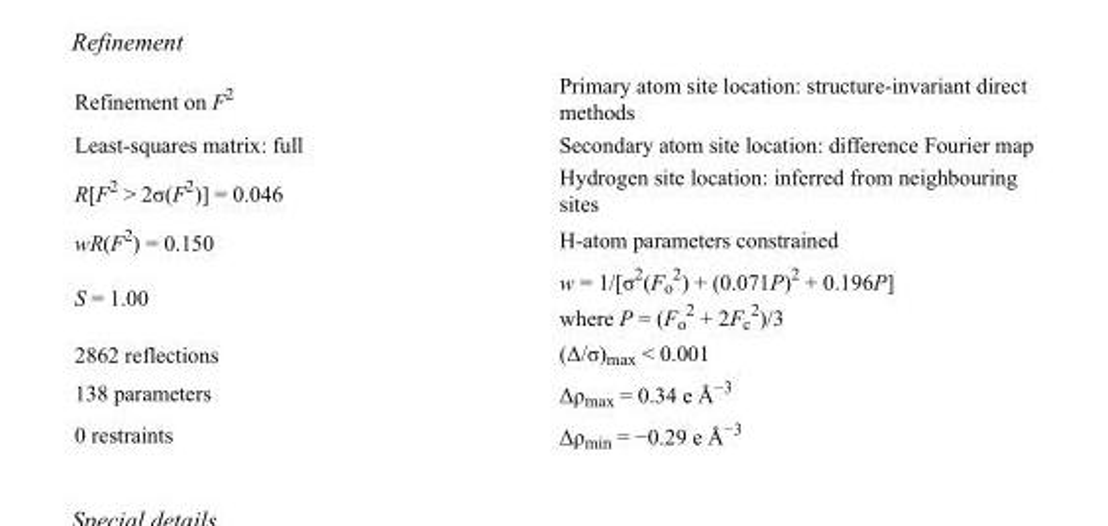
<table><tbody><tr><td>Refinement on F<sup>2</sup></td><td>Primary atom site location: structure-invariant direct methods</td></tr><tr><td>Least-squares matrix: full</td><td>Secondary atom site location: difference Fourier map</td></tr><tr><td>R[F<sup>2</sup> &gt; 2σ(F<sup>2</sup>)] = 0.046</td><td>Hydrogen site location: inferred from neighbouring sites</td></tr><tr><td>wR(F<sup>2</sup>) = 0.150</td><td>H-atom parameters constrained</td></tr><tr><td>S = 1.00</td><td>w = 1/[σ<sup>2</sup>(F<sub>o</sub> <sup>2</sup>) + (0.071P)<sup>2</sup> + 0.196P] where P = (F<sub>o</sub> <sup>2</sup> + 2F<sub>c</sub> <sup>2</sup>)/3</td></tr><tr><td>2862 reflections</td><td>(Δ/σ)<sub>max</sub> &lt; 0.001</td></tr><tr><td>138 parameters</td><td>Δρ<sub>max</sub> = 0.34 e Å<sup>−3</sup></td></tr><tr><td>0 restraints</td><td>Δρ<sub>min</sub> = −0.29 e Å<sup>−3</sup></td></tr></tbody></table>